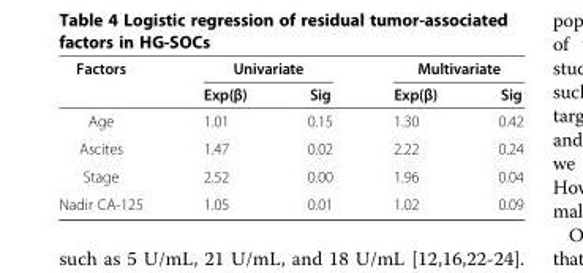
<table><thead><tr><td rowspan="2">Factors</td><td colspan="2">Univariate</td><td colspan="2">Multivariate</td></tr><tr><td>Exp(β)</td><td>Sig</td><td>Exp(β)</td><td>Sig</td></tr></thead><tbody><tr><td>Age</td><td>1.01</td><td>0.15</td><td>1.30</td><td>0.42</td></tr><tr><td>Ascites</td><td>1.47</td><td>0.02</td><td>2.22</td><td>0.24</td></tr><tr><td>Stage</td><td>2.52</td><td>0.00</td><td>1.96</td><td>0.04</td></tr><tr><td>Nadir CA-125</td><td>1.05</td><td>0.01</td><td>1.02</td><td>0.09</td></tr></tbody></table>